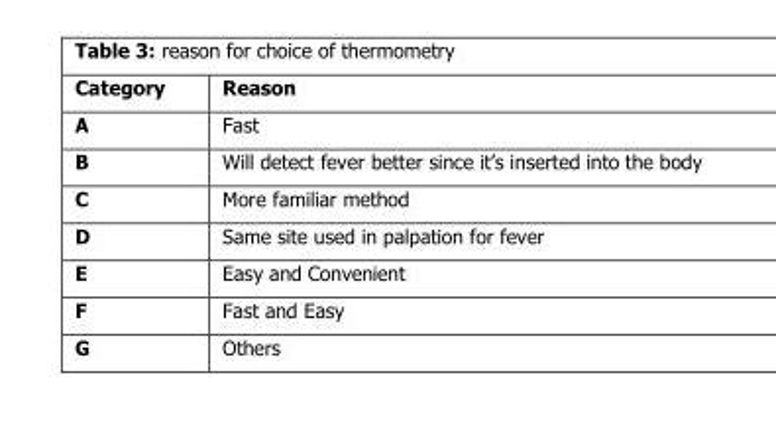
<table><thead><tr><td>Category</td><td>Reason</td></tr></thead><tbody><tr><td>A</td><td>Fast</td></tr><tr><td>B</td><td>Will detect fever better since it’s inserted into the body</td></tr><tr><td>C</td><td>More familiar method</td></tr><tr><td>D</td><td>Same site used in palpation for fever</td></tr><tr><td>E</td><td>Easy and Convenient</td></tr><tr><td>F</td><td>Fast and Easy</td></tr><tr><td>G</td><td>Others</td></tr></tbody></table>